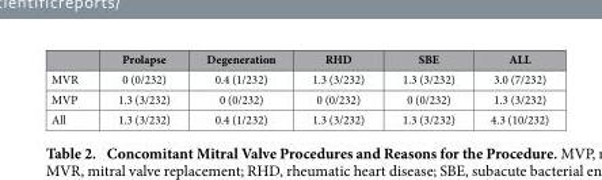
<table><thead><tr><td></td><td>Prolapse</td><td>Degeneration</td><td>RHD</td><td>SBE</td><td>ALL</td></tr></thead><tbody><tr><td>MVR</td><td>0 (0/232)</td><td>0.4 (1/232)</td><td>1.3 (3/232)</td><td>1.3 (3/232)</td><td>3.0 (7/232)</td></tr><tr><td>MVP</td><td>1.3 (3/232)</td><td>0 (0/232)</td><td>0 (0/232)</td><td>0 (0/232)</td><td>1.3 (3/232)</td></tr><tr><td>All</td><td>1.3 (3/232)</td><td>0.4 (1/232)</td><td>1.3 (3/232)</td><td>1.3 (3/232)</td><td>4.3 (10/232)</td></tr></tbody></table>